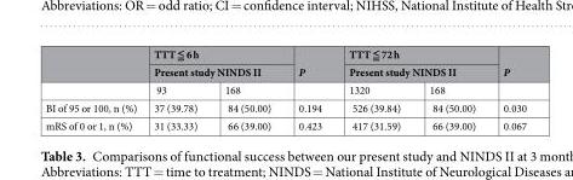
<table><thead><tr><td rowspan="3"></td><td rowspan="2" colspan="2">TTT ≦ 6 h Present study NINDS II</td><td rowspan="3">P</td><td rowspan="2" colspan="2">TTT ≦ 72 h Present study NINDS II</td><td rowspan="3">P</td></tr><tr></tr><tr><td>93</td><td>168</td><td>1320</td><td>168</td></tr></thead><tbody><tr><td>BI of 95 or 100, n (%)</td><td>37 (39.78)</td><td>84 (50.00)</td><td>0.194</td><td>526 (39.84)</td><td>84 (50.00)</td><td>0.030</td></tr><tr><td>mRS of 0 or 1, n (%)</td><td>31 (33.33)</td><td>66 (39.00)</td><td>0.423</td><td>417 (31.59)</td><td>66 (39.00)</td><td>0.067</td></tr></tbody></table>